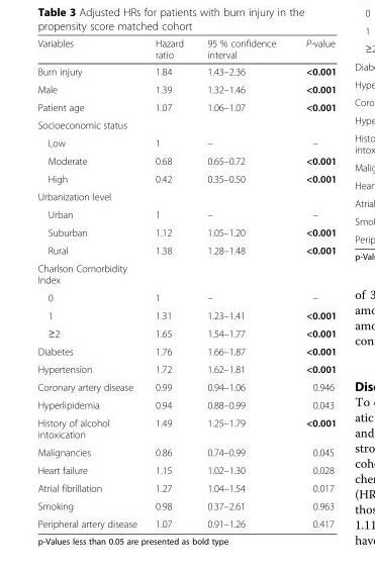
<table><thead><tr><td>Variables</td><td>Hazard ratio</td><td>95 % confidence interval</td><td>P-value</td></tr></thead><tbody><tr><td>Burn injury</td><td>1.84</td><td>1.43–2.36</td><td>&lt;0.001</td></tr><tr><td>Male</td><td>1.39</td><td>1.32–1.46</td><td>&lt;0.001</td></tr><tr><td>Patient age</td><td>1.07</td><td>1.06–1.07</td><td>&lt;0.001</td></tr><tr><td colspan="4">Socioeconomic status</td></tr><tr><td>Low</td><td>1</td><td>–</td><td>–</td></tr><tr><td>Moderate</td><td>0.68</td><td>0.65–0.72</td><td>&lt;0.001</td></tr><tr><td>High</td><td>0.42</td><td>0.35–0.50</td><td>&lt;0.001</td></tr><tr><td colspan="4">Urbanization level</td></tr><tr><td>Urban</td><td>1</td><td>–</td><td>–</td></tr><tr><td>Suburban</td><td>1.12</td><td>1.05–1.20</td><td>&lt;0.001</td></tr><tr><td>Rural</td><td>1.38</td><td>1.28–1.48</td><td>&lt;0.001</td></tr><tr><td colspan="4">Charlson Comorbidity Index</td></tr><tr><td>0</td><td>1</td><td>–</td><td>–</td></tr><tr><td>1</td><td>1.31</td><td>1.23–1.41</td><td>&lt;0.001</td></tr><tr><td>≥2</td><td>1.65</td><td>1.54–1.77</td><td>&lt;0.001</td></tr><tr><td>Diabetes</td><td>1.76</td><td>1.66–1.87</td><td>&lt;0.001</td></tr><tr><td>Hypertension</td><td>1.72</td><td>1.62–1.81</td><td>&lt;0.001</td></tr><tr><td>Coronary artery disease</td><td>0.99</td><td>0.94–1.06</td><td>0.946</td></tr><tr><td>Hyperlipidemia</td><td>0.94</td><td>0.88–0.99</td><td>0.043</td></tr><tr><td>History of alcohol intoxication</td><td>1.49</td><td>1.25–1.79</td><td>&lt;0.001</td></tr><tr><td>Malignancies</td><td>0.86</td><td>0.74–0.99</td><td>0.045</td></tr><tr><td>Heart failure</td><td>1.15</td><td>1.02–1.30</td><td>0.028</td></tr><tr><td>Atrial fibrillation</td><td>1.27</td><td>1.04–1.54</td><td>0.017</td></tr><tr><td>Smoking</td><td>0.98</td><td>0.37–2.61</td><td>0.963</td></tr><tr><td>Peripheral artery disease</td><td>1.07</td><td>0.91–1.26</td><td>0.417</td></tr></tbody></table>